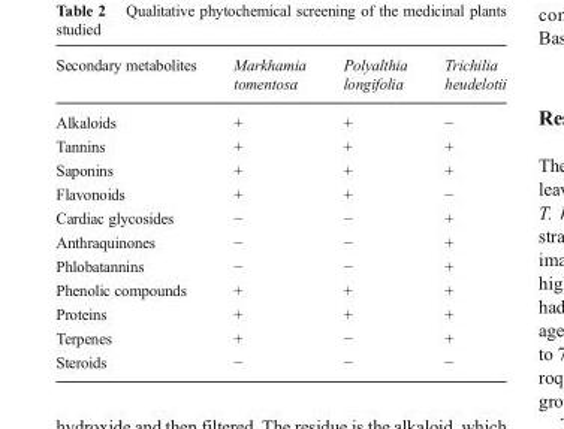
<table><thead><tr><td>Secondary metabolites</td><td>Markhamia tomentosa</td><td>Polyalthia longifolia</td><td>Trichilia heudelotii</td></tr></thead><tbody><tr><td>Alkaloids</td><td>+</td><td>+</td><td>−</td></tr><tr><td>Tannins</td><td>+</td><td>+</td><td>+</td></tr><tr><td>Saponins</td><td>+</td><td>+</td><td>+</td></tr><tr><td>Flavonoids</td><td>+</td><td>+</td><td>−</td></tr><tr><td>Cardiac glycosides</td><td>−</td><td>−</td><td>+</td></tr><tr><td>Anthraquinones</td><td>−</td><td>−</td><td>+</td></tr><tr><td>Phlobatannins</td><td>−</td><td>−</td><td>+</td></tr><tr><td>Phenolic compounds</td><td>+</td><td>+</td><td>+</td></tr><tr><td>Proteins</td><td>+</td><td>+</td><td>+</td></tr><tr><td>Terpenes</td><td>+</td><td>−</td><td>+</td></tr><tr><td>Steroids</td><td>−</td><td>−</td><td>−</td></tr></tbody></table>